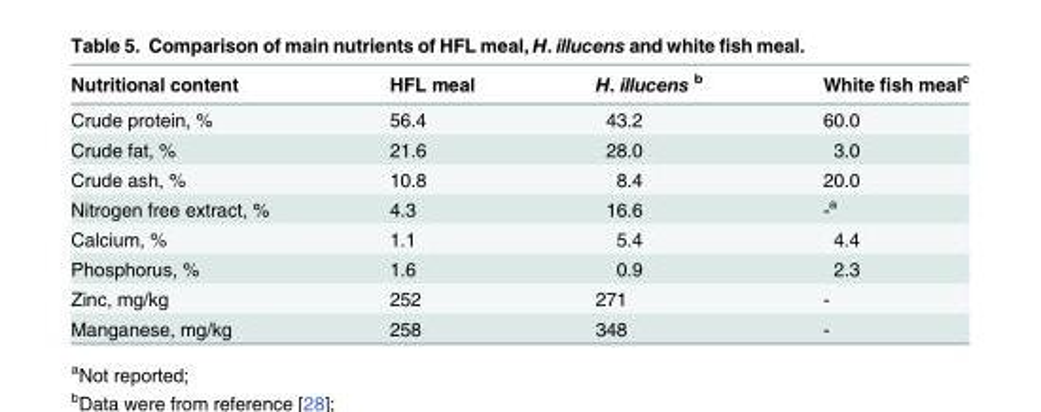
<table><thead><tr><td>Nutritional content</td><td>HFL meal</td><td>H. illucens <sup>b</sup></td><td>White fish meal<sup>c</sup></td></tr></thead><tbody><tr><td>Crude protein, %</td><td>56.4</td><td>43.2</td><td>60.0</td></tr><tr><td>Crude fat, %</td><td>21.6</td><td>28.0</td><td>3.0</td></tr><tr><td>Crude ash, %</td><td>10.8</td><td>8.4</td><td>20.0</td></tr><tr><td>Nitrogen free extract, %</td><td>4.3</td><td>16.6</td><td>-<sup>a</sup></td></tr><tr><td>Calcium, %</td><td>1.1</td><td>5.4</td><td>4.4</td></tr><tr><td>Phosphorus, %</td><td>1.6</td><td>0.9</td><td>2.3</td></tr><tr><td>Zinc, mg/kg</td><td>252</td><td>271</td><td>-</td></tr><tr><td>Manganese, mg/kg</td><td>258</td><td>348</td><td>-</td></tr></tbody></table>